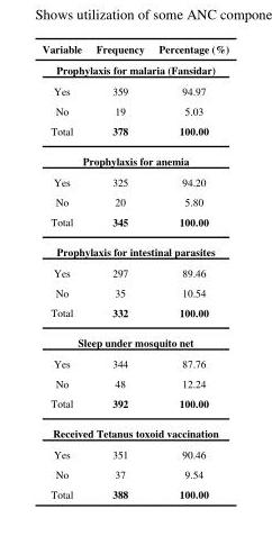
<table><thead><tr><td>Variable</td><td>Frequency</td><td>Percentage (%)</td></tr></thead><tbody><tr><td colspan="3">Prophylaxis for malaria (Fansidar)</td></tr><tr><td>Yes</td><td>359</td><td>94.97</td></tr><tr><td>No</td><td>19</td><td>5.03</td></tr><tr><td>Total</td><td>378</td><td>100.00</td></tr><tr><td colspan="3">Prophylaxis for anemia</td></tr><tr><td>Yes</td><td>325</td><td>94.20</td></tr><tr><td>No</td><td>20</td><td>5.80</td></tr><tr><td>Total</td><td>345</td><td>100.00</td></tr><tr><td colspan="3">Prophylaxis for intestinal parasites</td></tr><tr><td>Yes</td><td>297</td><td>89.46</td></tr><tr><td>No</td><td>35</td><td>10.54</td></tr><tr><td>Total</td><td>332</td><td>100.00</td></tr><tr><td colspan="3">Sleep under mosquito net</td></tr><tr><td>Yes</td><td>344</td><td>87.76</td></tr><tr><td>No</td><td>48</td><td>12.24</td></tr><tr><td>Total</td><td>392</td><td>100.00</td></tr><tr><td colspan="3">Received Tetanus toxoid vaccination</td></tr><tr><td>Yes</td><td>351</td><td>90.46</td></tr><tr><td>No</td><td>37</td><td>9.54</td></tr><tr><td>Total</td><td>388</td><td>100.00</td></tr></tbody></table>